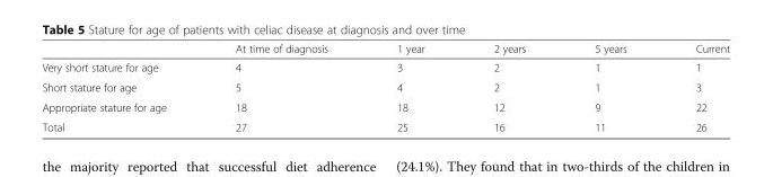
<table><thead><tr><td></td><td>At time of diagnosis</td><td>1 year</td><td>2 years</td><td>5 years</td><td>Current</td></tr></thead><tbody><tr><td>Very short stature for age</td><td>4</td><td>3</td><td>2</td><td>1</td><td>1</td></tr><tr><td>Short stature for age</td><td>5</td><td>4</td><td>2</td><td>1</td><td>3</td></tr><tr><td>Appropriate stature for age</td><td>18</td><td>18</td><td>12</td><td>9</td><td>22</td></tr><tr><td>Total</td><td>27</td><td>25</td><td>16</td><td>11</td><td>26</td></tr></tbody></table>